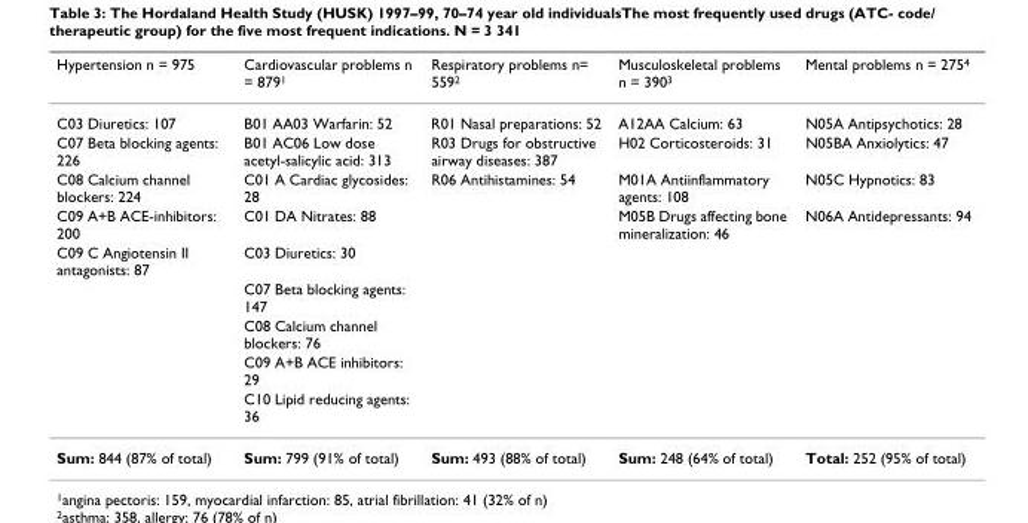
<table><thead><tr><td>Hypertension n = 975</td><td>Cardiovascular problems n = 8791</td><td>Respiratory problems n= 5592</td><td>Musculoskeletal problems n = 3903</td><td>Mental problems n = 2754</td></tr></thead><tbody><tr><td>C03 Diuretics: 107</td><td>B01 AA03 Warfarin: 52</td><td>R01 Nasal preparations: 52</td><td>A12AA Calcium: 63</td><td>N05A Antipsychotics: 28</td></tr><tr><td>C07 Beta blocking agents: 226</td><td>B01 AC06 Low dose acetyl-salicylic acid: 313</td><td>R03 Drugs for obstructive airway diseases: 387</td><td>H02 Corticosteroids: 31</td><td>N05BA Anxiolytics: 47</td></tr><tr><td>C08 Calcium channel blockers: 224</td><td>C01 A Cardiac glycosides: 28</td><td>R06 Antihistamines: 54</td><td>M01A Antiinflammatory agents: 108</td><td>N05C Hypnotics: 83</td></tr><tr><td>C09 A+B ACE-inhibitors: 200</td><td>C01 DA Nitrates: 88</td><td></td><td>M05B Drugs affecting bone mineralization: 46</td><td>N06A Antidepressants: 94</td></tr><tr><td rowspan="5">C09 C Angiotensin II antagonists: 87</td><td>C03 Diuretics: 30</td><td></td><td></td><td></td></tr><tr><td>C07 Beta blocking agents: 147</td><td></td><td></td><td></td></tr><tr><td>C08 Calcium channel blockers: 76</td><td></td><td></td><td></td></tr><tr><td>C09 A+B ACE inhibitors: 29</td><td></td><td></td><td></td></tr><tr><td>C10 Lipid reducing agents: 36</td><td></td><td></td><td></td></tr><tr><td>Sum: 844 (87% of total)</td><td>Sum: 799 (91% of total)</td><td>Sum: 493 (88% of total)</td><td>Sum: 248 (64% of total)</td><td>Total: 252 (95% of total)</td></tr></tbody></table>